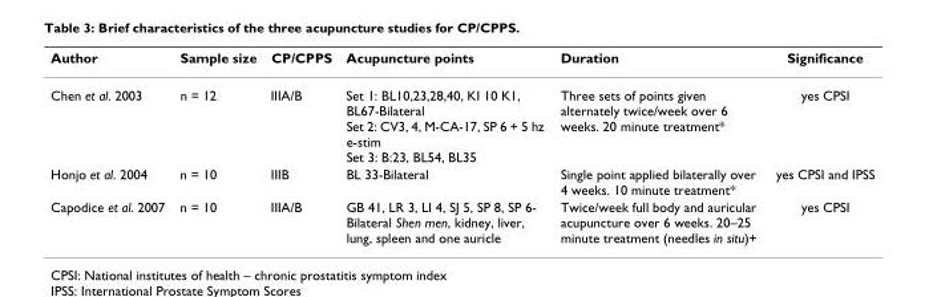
<table><thead><tr><td>Author</td><td>Sample size</td><td>CP/CPPS</td><td>Acupuncture points</td><td>Duration</td><td>Significance</td></tr></thead><tbody><tr><td>Chen et al. 2003</td><td>n = 12</td><td>IIIA/B</td><td>Set 1: BL10,23,28,40, KI 10 K1, BL67-Bilateral Set 2: CV3, 4, M-CA-17, SP 6 + 5 hz e-stim Set 3: B:23, BL54, BL35</td><td>Three sets of points given alternately twice/week over 6 weeks. 20 minute treatment*</td><td>yes CPSI</td></tr><tr><td>Honjo et al. 2004</td><td>n = 10</td><td>IIIB</td><td>BL 33-Bilateral</td><td>Single point applied bilaterally over 4 weeks. 10 minute treatment*</td><td>yes CPSI and IPSS</td></tr><tr><td>Capodice et al. 2007</td><td>n = 10</td><td>IIIA/B</td><td>GB 41, LR 3, LI 4, SJ 5, SP 8, SP 6- Bilateral Shen men, kidney, liver, lung, spleen and one auricle</td><td>Twice/week full body and auricular acupuncture over 6 weeks. 20–25 minute treatment (needles in situ)+</td><td>yes CPSI</td></tr></tbody></table>